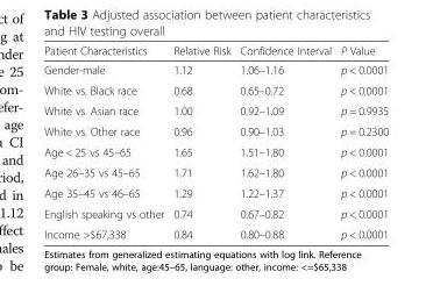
<table><thead><tr><td>Patient Characteristics</td><td>Relative Risk</td><td>Confidence Interval</td><td>P Value</td></tr></thead><tbody><tr><td>Gender-male</td><td>1.12</td><td>1.06–1.16</td><td>p &lt; 0.0001</td></tr><tr><td>White vs. Black race</td><td>0.68</td><td>0.65–0.72</td><td>p &lt; 0.0001</td></tr><tr><td>White vs. Asian race</td><td>1.00</td><td>0.92–1.09</td><td>p = 0.9935</td></tr><tr><td>White vs. Other race</td><td>0.96</td><td>0.90–1.03</td><td>p = 0.2300</td></tr><tr><td>Age &lt; 25 vs 45–65</td><td>1.65</td><td>1.51–1.80</td><td>p &lt; 0.0001</td></tr><tr><td>Age 26–35 vs 45–65</td><td>1.71</td><td>1.62–1.80</td><td>p &lt; 0.0001</td></tr><tr><td>Age 35–45 vs 46–65</td><td>1.29</td><td>1.22–1.37</td><td>p &lt; 0.0001</td></tr><tr><td>English speaking vs other</td><td>0.74</td><td>0.67–0.82</td><td>p &lt; 0.0001</td></tr><tr><td>Income &gt;$67,338</td><td>0.84</td><td>0.80–0.88</td><td>p &lt; 0.0001</td></tr></tbody></table>